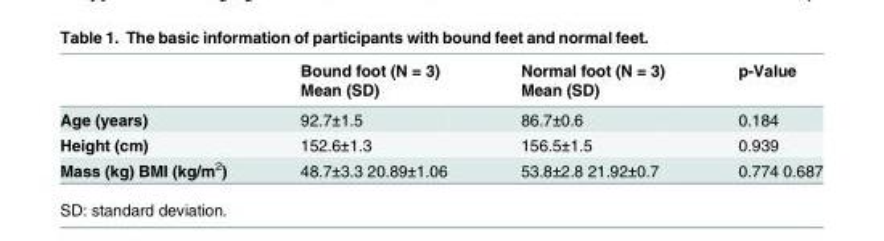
<table><thead><tr><td rowspan="2"></td><td rowspan="2">Bound foot (N = 3) Mean (SD)</td><td rowspan="2">Normal foot (N = 3) Mean (SD)</td><td rowspan="2">p-Value</td></tr><tr></tr></thead><tbody><tr><td>Age (years)</td><td>92.7±1.5</td><td>86.7±0.6</td><td>0.184</td></tr><tr><td>Height (cm)</td><td>152.6±1.3</td><td>156.5±1.5</td><td>0.939</td></tr><tr><td>Mass (kg) BMI (kg/m2)</td><td>48.7±3.3 20.89±1.06</td><td>53.8±2.8 21.92±0.7</td><td>0.774 0.687</td></tr></tbody></table>